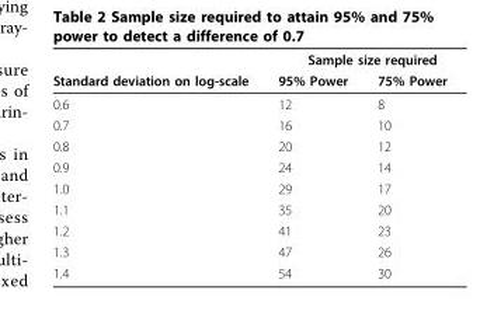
<table><thead><tr><td rowspan="2">Standard deviation on log-scale</td><td colspan="2">Sample size required</td></tr><tr><td>95% Power</td><td>75% Power</td></tr></thead><tbody><tr><td>0.6</td><td>12</td><td>8</td></tr><tr><td>0.7</td><td>16</td><td>10</td></tr><tr><td>0.8</td><td>20</td><td>12</td></tr><tr><td>0.9</td><td>24</td><td>14</td></tr><tr><td>1.0</td><td>29</td><td>17</td></tr><tr><td>1.1</td><td>35</td><td>20</td></tr><tr><td>1.2</td><td>41</td><td>23</td></tr><tr><td>1.3</td><td>47</td><td>26</td></tr><tr><td>1.4</td><td>54</td><td>30</td></tr></tbody></table>